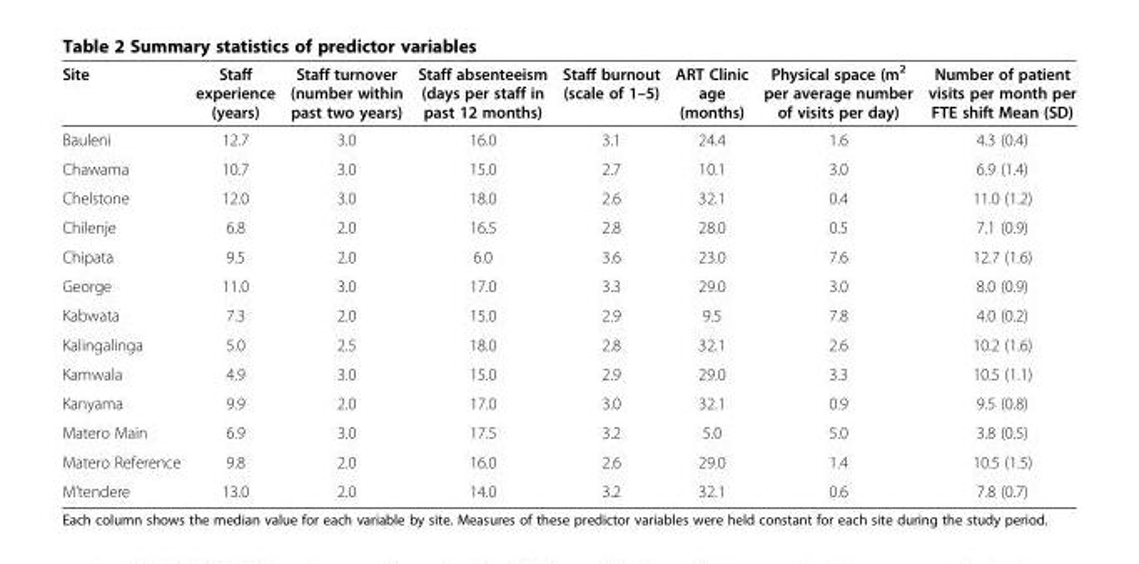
<table><thead><tr><td>Site</td><td>Staff experience (years)</td><td>Staff turnover (number within past two years)</td><td>Staff absenteeism (days per staff in past 12 months)</td><td>Staff burnout (scale of 1–5)</td><td>ART Clinic age (months)</td><td>Physical space (m<sup>2</sup> per average number of visits per day)</td><td>Number of patient visits per month per FTE shift Mean (SD)</td></tr></thead><tbody><tr><td>Bauleni</td><td>12.7</td><td>3.0</td><td>16.0</td><td>3.1</td><td>24.4</td><td>1.6</td><td>4.3 (0.4)</td></tr><tr><td>Chawama</td><td>10.7</td><td>3.0</td><td>15.0</td><td>2.7</td><td>10.1</td><td>3.0</td><td>6.9 (1.4)</td></tr><tr><td>Chelstone</td><td>12.0</td><td>3.0</td><td>18.0</td><td>2.6</td><td>32.1</td><td>0.4</td><td>11.0 (1.2)</td></tr><tr><td>Chilenje</td><td>6.8</td><td>2.0</td><td>16.5</td><td>2.8</td><td>28.0</td><td>0.5</td><td>7.1 (0.9)</td></tr><tr><td>Chipata</td><td>9.5</td><td>2.0</td><td>6.0</td><td>3.6</td><td>23.0</td><td>7.6</td><td>12.7 (1.6)</td></tr><tr><td>George</td><td>11.0</td><td>3.0</td><td>17.0</td><td>3.3</td><td>29.0</td><td>3.0</td><td>8.0 (0.9)</td></tr><tr><td>Kabwata</td><td>7.3</td><td>2.0</td><td>15.0</td><td>2.9</td><td>9.5</td><td>7.8</td><td>4.0 (0.2)</td></tr><tr><td>Kalingalinga</td><td>5.0</td><td>2.5</td><td>18.0</td><td>2.8</td><td>32.1</td><td>2.6</td><td>10.2 (1.6)</td></tr><tr><td>Kamwala</td><td>4.9</td><td>3.0</td><td>15.0</td><td>2.9</td><td>29.0</td><td>3.3</td><td>10.5 (1.1)</td></tr><tr><td>Kanyama</td><td>9.9</td><td>2.0</td><td>17.0</td><td>3.0</td><td>32.1</td><td>0.9</td><td>9.5 (0.8)</td></tr><tr><td>Matero Main</td><td>6.9</td><td>3.0</td><td>17.5</td><td>3.2</td><td>5.0</td><td>5.0</td><td>3.8 (0.5)</td></tr><tr><td>Matero Reference</td><td>9.8</td><td>2.0</td><td>16.0</td><td>2.6</td><td>29.0</td><td>1.4</td><td>10.5 (1.5)</td></tr><tr><td>M’tendere</td><td>13.0</td><td>2.0</td><td>14.0</td><td>3.2</td><td>32.1</td><td>0.6</td><td>7.8 (0.7)</td></tr></tbody></table>